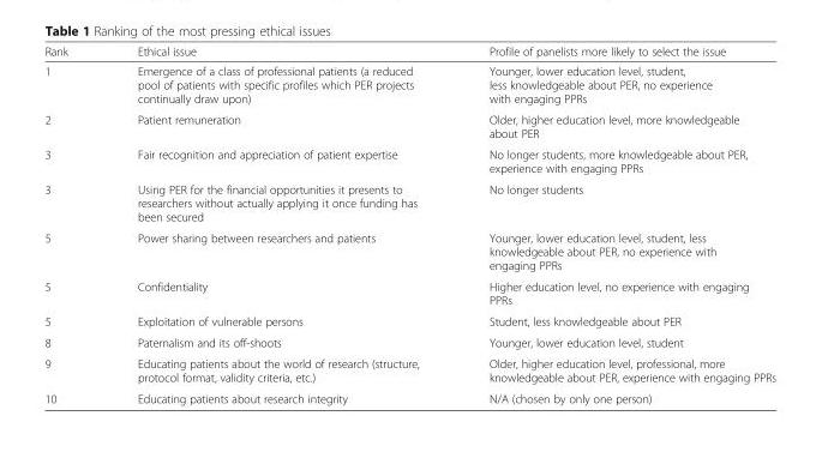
<table><thead><tr><td>Rank</td><td>Ethical issue</td><td>Profile of panelists more likely to select the issue</td></tr></thead><tbody><tr><td>1</td><td>Emergence of a class of professional patients (a reduced pool of patients with specific profiles which PER projects continually draw upon)</td><td>Younger, lower education level, student, less knowledgeable about PER, no experience with engaging PPRs</td></tr><tr><td>2</td><td>Patient remuneration</td><td>Older, higher education level, more knowledgeable about PER</td></tr><tr><td>3</td><td>Fair recognition and appreciation of patient expertise</td><td>No longer students, more knowledgeable about PER, experience with engaging PPRs</td></tr><tr><td>3</td><td>Using PER for the financial opportunities it presents to researchers without actually applying it once funding has been secured</td><td>No longer students</td></tr><tr><td>5</td><td>Power sharing between researchers and patients</td><td>Younger, lower education level, student, less knowledgeable about PER, no experience with engaging PPRs</td></tr><tr><td>5</td><td>Confidentiality</td><td>Higher education level, no experience with engaging PPRs</td></tr><tr><td>5</td><td>Exploitation of vulnerable persons</td><td>Student, less knowledgeable about PER</td></tr><tr><td>8</td><td>Paternalism and its off-shoots</td><td>Younger, lower education level, student</td></tr><tr><td>9</td><td>Educating patients about the world of research (structure, protocol format, validity criteria, etc.)</td><td>Older, higher education level, professional, more knowledgeable about PER, experience with engaging PPRs</td></tr><tr><td>10</td><td>Educating patients about research integrity</td><td>N/A (chosen by only one person)</td></tr></tbody></table>